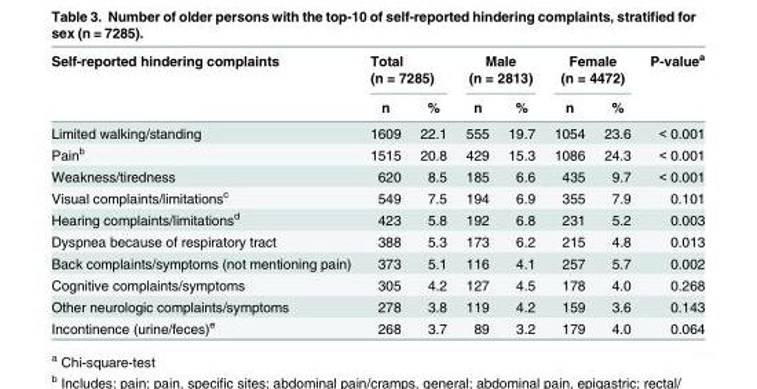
<table><thead><tr><td rowspan="2">Self-reported hindering complaints</td><td colspan="2">Total (n = 7285)</td><td colspan="2">Male (n = 2813)</td><td colspan="2">Female (n = 4472)</td><td rowspan="2">P-value<sup>a</sup></td></tr><tr><td>n</td><td>%</td><td>n</td><td>%</td><td>n</td><td>%</td></tr></thead><tbody><tr><td>Limited walking/standing</td><td>1609</td><td>22.1</td><td>555</td><td>19.7</td><td>1054</td><td>23.6</td><td>&lt; 0.001</td></tr><tr><td>Pain<sup>b</sup></td><td>1515</td><td>20.8</td><td>429</td><td>15.3</td><td>1086</td><td>24.3</td><td>&lt; 0.001</td></tr><tr><td>Weakness/tiredness</td><td>620</td><td>8.5</td><td>185</td><td>6.6</td><td>435</td><td>9.7</td><td>&lt; 0.001</td></tr><tr><td>Visual complaints/limitations<sup>c</sup></td><td>549</td><td>7.5</td><td>194</td><td>6.9</td><td>355</td><td>7.9</td><td>0.101</td></tr><tr><td>Hearing complaints/limitations<sup>d</sup></td><td>423</td><td>5.8</td><td>192</td><td>6.8</td><td>231</td><td>5.2</td><td>0.003</td></tr><tr><td>Dyspnea because of respiratory tract</td><td>388</td><td>5.3</td><td>173</td><td>6.2</td><td>215</td><td>4.8</td><td>0.013</td></tr><tr><td>Back complaints/symptoms (not mentioning pain)</td><td>373</td><td>5.1</td><td>116</td><td>4.1</td><td>257</td><td>5.7</td><td>0.002</td></tr><tr><td>Cognitive complaints/symptoms</td><td>305</td><td>4.2</td><td>127</td><td>4.5</td><td>178</td><td>4.0</td><td>0.268</td></tr><tr><td>Other neurologic complaints/symptoms</td><td>278</td><td>3.8</td><td>119</td><td>4.2</td><td>159</td><td>3.6</td><td>0.143</td></tr><tr><td>Incontinence (urine/feces)<sup>e</sup></td><td>268</td><td>3.7</td><td>89</td><td>3.2</td><td>179</td><td>4.0</td><td>0.064</td></tr></tbody></table>